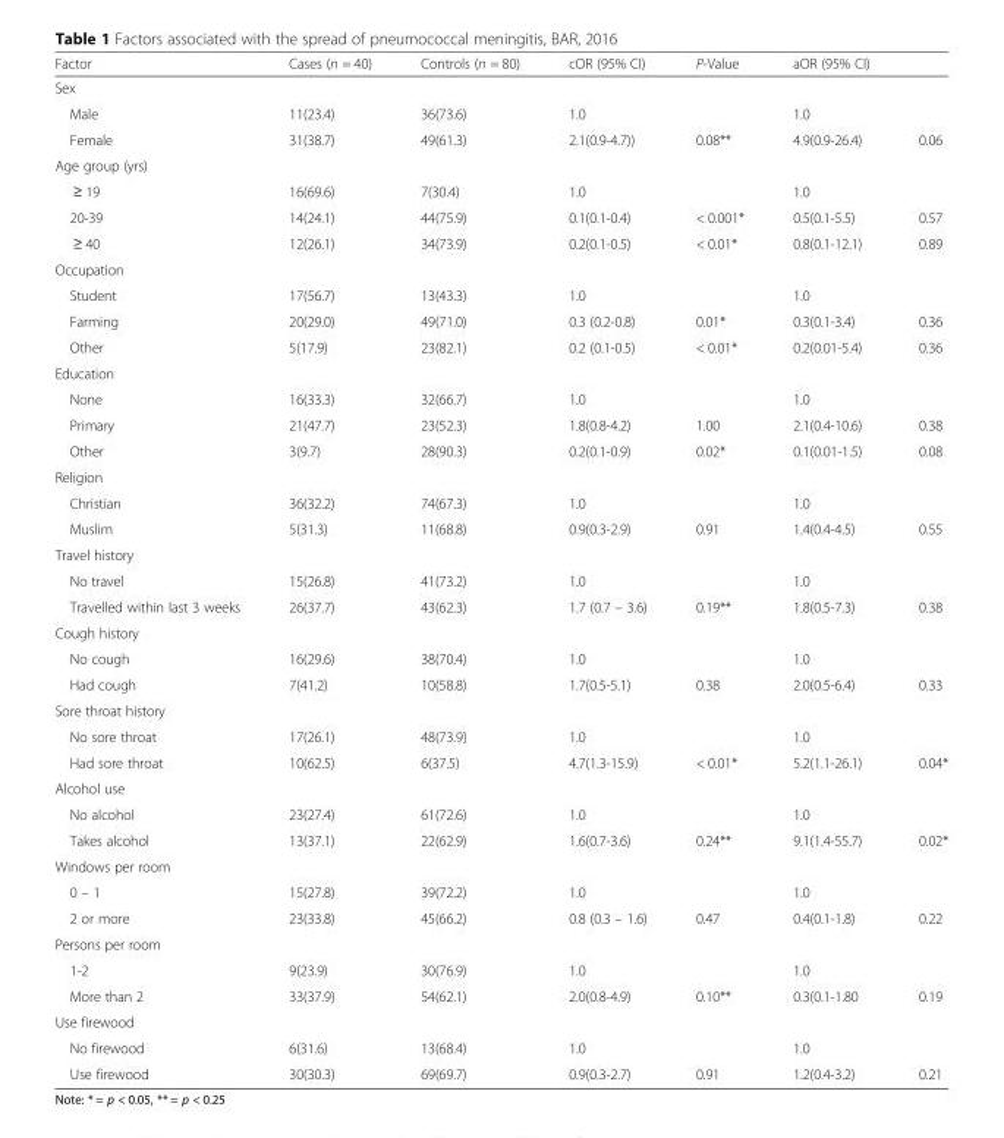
<table><thead><tr><td>Factor</td><td>Cases (n = 40)</td><td>Controls (n = 80)</td><td>cOR (95% CI)</td><td>P-Value</td><td>aOR (95% CI)</td><td></td></tr></thead><tbody><tr><td colspan="7">Sex</td></tr><tr><td>Male</td><td>11(23.4)</td><td>36(73.6)</td><td>1.0</td><td></td><td>1.0</td><td></td></tr><tr><td>Female</td><td>31(38.7)</td><td>49(61.3)</td><td>2.1(0.9-4.7))</td><td>0.08**</td><td>4.9(0.9-26.4)</td><td>0.06</td></tr><tr><td colspan="7">Age group (yrs)</td></tr><tr><td>≥ 19</td><td>16(69.6)</td><td>7(30.4)</td><td>1.0</td><td></td><td>1.0</td><td></td></tr><tr><td>20-39</td><td>14(24.1)</td><td>44(75.9)</td><td>0.1(0.1-0.4)</td><td>&lt; 0.001*</td><td>0.5(0.1-5.5)</td><td>0.57</td></tr><tr><td>≥ 40</td><td>12(26.1)</td><td>34(73.9)</td><td>0.2(0.1-0.5)</td><td>&lt; 0.01*</td><td>0.8(0.1-12.1)</td><td>0.89</td></tr><tr><td colspan="7">Occupation</td></tr><tr><td>Student</td><td>17(56.7)</td><td>13(43.3)</td><td>1.0</td><td></td><td>1.0</td><td></td></tr><tr><td>Farming</td><td>20(29.0)</td><td>49(71.0)</td><td>0.3 (0.2-0.8)</td><td>0.01*</td><td>0.3(0.1-3.4)</td><td>0.36</td></tr><tr><td>Other</td><td>5(17.9)</td><td>23(82.1)</td><td>0.2 (0.1-0.5)</td><td>&lt; 0.01*</td><td>0.2(0.01-5.4)</td><td>0.36</td></tr><tr><td colspan="7">Education</td></tr><tr><td>None</td><td>16(33.3)</td><td>32(66.7)</td><td>1.0</td><td></td><td>1.0</td><td></td></tr><tr><td>Primary</td><td>21(47.7)</td><td>23(52.3)</td><td>1.8(0.8-4.2)</td><td>1.00</td><td>2.1(0.4-10.6)</td><td>0.38</td></tr><tr><td>Other</td><td>3(9.7)</td><td>28(90.3)</td><td>0.2(0.1-0.9)</td><td>0.02*</td><td>0.1(0.01-1.5)</td><td>0.08</td></tr><tr><td colspan="7">Religion</td></tr><tr><td>Christian</td><td>36(32.2)</td><td>74(67.3)</td><td>1.0</td><td></td><td>1.0</td><td></td></tr><tr><td>Muslim</td><td>5(31.3)</td><td>11(68.8)</td><td>0.9(0.3-2.9)</td><td>0.91</td><td>1.4(0.4-4.5)</td><td>0.55</td></tr><tr><td colspan="7">Travel history</td></tr><tr><td>No travel</td><td>15(26.8)</td><td>41(73.2)</td><td>1.0</td><td></td><td>1.0</td><td></td></tr><tr><td>Travelled within last 3 weeks</td><td>26(37.7)</td><td>43(62.3)</td><td>1.7 (0.7 – 3.6)</td><td>0.19**</td><td>1.8(0.5-7.3)</td><td>0.38</td></tr><tr><td colspan="7">Cough history</td></tr><tr><td>No cough</td><td>16(29.6)</td><td>38(70.4)</td><td>1.0</td><td></td><td>1.0</td><td></td></tr><tr><td>Had cough</td><td>7(41.2)</td><td>10(58.8)</td><td>1.7(0.5-5.1)</td><td>0.38</td><td>2.0(0.5-6.4)</td><td>0.33</td></tr><tr><td colspan="7">Sore throat history</td></tr><tr><td>No sore throat</td><td>17(26.1)</td><td>48(73.9}</td><td>1.0</td><td></td><td>1.0</td><td></td></tr><tr><td>Had sore throat</td><td>10(62.5)</td><td>6(37.5)</td><td>4.7(1.3-15.9)</td><td>&lt; 0.01*</td><td>5.2(1.1-26.1)</td><td>0.04*</td></tr><tr><td colspan="7">Alcohol use</td></tr><tr><td>No alcohol</td><td>23(27.4)</td><td>61(72.6)</td><td>1.0</td><td></td><td>1.0</td><td></td></tr><tr><td>Takes alcohol</td><td>13(37.1)</td><td>22(62.9)</td><td>1.6(0.7-3.6)</td><td>0.24**</td><td>9.1(1.4-55.7)</td><td>0.02*</td></tr><tr><td colspan="7">Windows per room</td></tr><tr><td>0 – 1</td><td>15(27.8)</td><td>39(72.2)</td><td>1.0</td><td></td><td>1.0</td><td></td></tr><tr><td>2 or more</td><td>23(33.8)</td><td>45(66.2)</td><td>0.8 (0.3 – 1.6)</td><td>0.47</td><td>0.4(0.1-1.8)</td><td>0.22</td></tr><tr><td colspan="7">Persons per room</td></tr><tr><td>1-2</td><td>9(23.9)</td><td>30(76.9)</td><td>1.0</td><td></td><td>1.0</td><td></td></tr><tr><td>More than 2</td><td>33(37.9)</td><td>54(62.1)</td><td>2.0(0.8-4.9)</td><td>0.10**</td><td>0.3(0.1-1.80</td><td>0.19</td></tr><tr><td colspan="7">Use firewood</td></tr><tr><td>No firewood</td><td>6(31.6)</td><td>13(68.4)</td><td>1.0</td><td></td><td>1.0</td><td></td></tr><tr><td>Use firewood</td><td>30(30.3)</td><td>69(69.7)</td><td>0.9(0.3-2.7)</td><td>0.91</td><td>1.2(0.4-3.2)</td><td>0.21</td></tr></tbody></table>